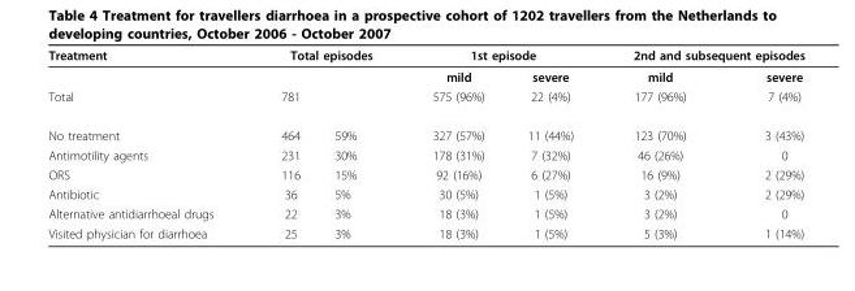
<table><thead><tr><td rowspan="2">Treatment</td><td colspan="2">Total episodes</td><td colspan="2">1st episode</td><td colspan="2">2nd and subsequent episodes</td></tr><tr><td></td><td></td><td>mild</td><td>severe</td><td>mild</td><td>severe</td></tr></thead><tbody><tr><td>Total</td><td>781</td><td></td><td>575 (96%)</td><td>22 (4%)</td><td>177 (96%)</td><td>7 (4%)</td></tr><tr><td>No treatment</td><td>464</td><td>59%</td><td>327 (57%)</td><td>11 (44%)</td><td>123 (70%)</td><td>3 (43%)</td></tr><tr><td>Antimotility agents</td><td>231</td><td>30%</td><td>178 (31%)</td><td>7 (32%)</td><td>46 (26%)</td><td>0</td></tr><tr><td>ORS</td><td>116</td><td>15%</td><td>92 (16%)</td><td>6 (27%)</td><td>16 (9%)</td><td>2 (29%)</td></tr><tr><td>Antibiotic</td><td>36</td><td>5%</td><td>30 (5%)</td><td>1 (5%)</td><td>3 (2%)</td><td>2 (29%)</td></tr><tr><td>Alternative antidiarrhoeal drugs</td><td>22</td><td>3%</td><td>18 (3%)</td><td>1 (5%)</td><td>3 (2%)</td><td>0</td></tr><tr><td>Visited physician for diarrhoea</td><td>25</td><td>3%</td><td>18 (3%)</td><td>1 (5%)</td><td>5 (3%)</td><td>1 (14%)</td></tr></tbody></table>